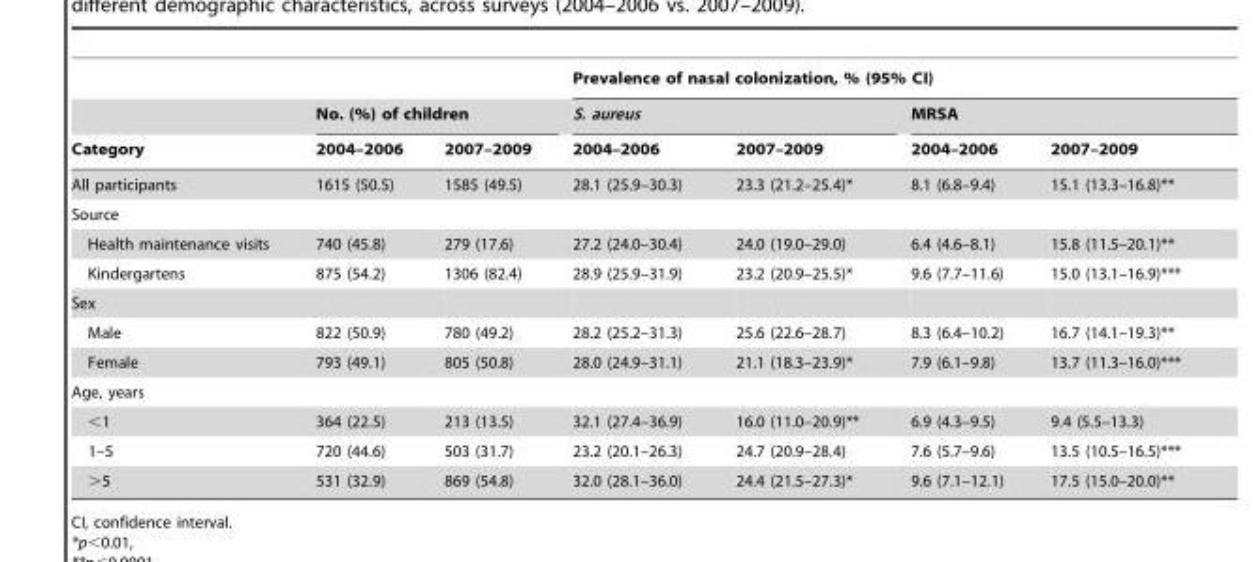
<table><thead><tr><td rowspan="3">Category</td><td></td><td></td><td colspan="4">Prevalence of nasal colonization, % (95% CI)</td></tr><tr><td colspan="2">No. (%) of children</td><td colspan="2">S. aureus</td><td colspan="2">MRSA</td></tr><tr><td>2004–2006</td><td>2007–2009</td><td>2004–2006</td><td>2007–2009</td><td>2004–2006</td><td>2007–2009</td></tr></thead><tbody><tr><td>All participants</td><td>1615 (50.5)</td><td>1585 (49.5)</td><td>28.1 (25.9–30.3)</td><td>23.3 (21.2–25.4)*</td><td>8.1 (6.8–9.4)</td><td>15.1 (13.3–16.8)**</td></tr><tr><td colspan="7">Source</td></tr><tr><td>Health maintenance visits</td><td>740 (45.8)</td><td>279 (17.6)</td><td>27.2 (24.0–30.4)</td><td>24.0 (19.0–29.0)</td><td>6.4 (4.6–8.1)</td><td>15.8 (11.5–20.1)**</td></tr><tr><td>Kindergartens</td><td>875 (54.2)</td><td>1306 (82.4)</td><td>28.9 (25.9–31.9)</td><td>23.2 (20.9–25.5)*</td><td>9.6 (7.7–11.6)</td><td>15.0 (13.1–16.9)***</td></tr><tr><td colspan="7">Sex</td></tr><tr><td>Male</td><td>822 (50.9)</td><td>780 (49.2)</td><td>28.2 (25.2–31.3)</td><td>25.6 (22.6–28.7)</td><td>8.3 (6.4–10.2)</td><td>16.7 (14.1–19.3)**</td></tr><tr><td>Female</td><td>793 (49.1)</td><td>805 (50.8)</td><td>28.0 (24.9–31.1)</td><td>21.1 (18.3–23.9)*</td><td>7.9 (6.1–9.8)</td><td>13.7 (11.3–16.0)***</td></tr><tr><td colspan="7">Age, years</td></tr><tr><td>&lt;1</td><td>364 (22.5)</td><td>213 (13.5)</td><td>32.1 (27.4–36.9)</td><td>16.0 (11.0–20.9)**</td><td>6.9 (4.3–9.5)</td><td>9.4 (5.5–13.3)</td></tr><tr><td>1–5</td><td>720 (44.6)</td><td>503 (31.7)</td><td>23.2 (20.1–26.3)</td><td>24.7 (20.9–28.4)</td><td>7.6 (5.7–9.6)</td><td>13.5 (10.5–16.5)***</td></tr><tr><td>&gt;5</td><td>531 (32.9)</td><td>869 (54.8)</td><td>32.0 (28.1–36.0)</td><td>24.4 (21.5–27.3)*</td><td>9.6 (7.1–12.1)</td><td>17.5 (15.0–20.0)**</td></tr></tbody></table>